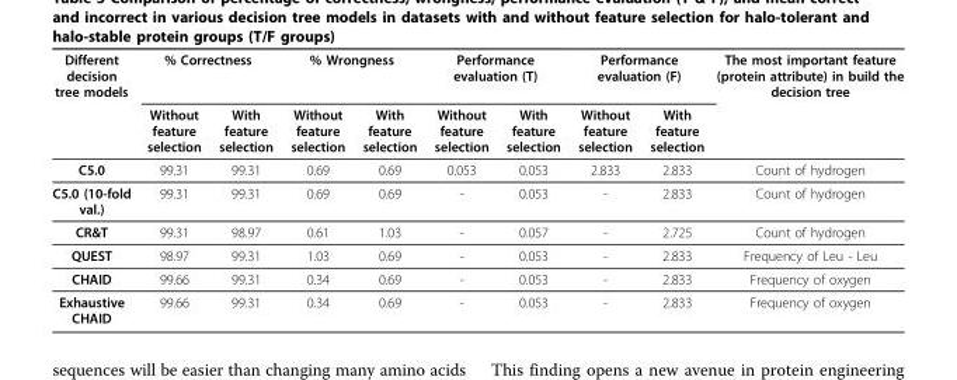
<table><thead><tr><td rowspan="2">Different decision tree models</td><td colspan="2">% Correctness</td><td colspan="2">% Wrongness</td><td colspan="2">Performance evaluation (T)</td><td colspan="2">Performance evaluation (F)</td><td rowspan="2">The most important feature (protein attribute) in build the decision tree</td></tr><tr><td>Without feature selection</td><td>With feature selection</td><td>Without feature selection</td><td>With feature selection</td><td>Without feature selection</td><td>With feature selection</td><td>Without feature selection</td><td>With feature selection</td></tr></thead><tbody><tr><td>C5.0</td><td>99.31</td><td>99.31</td><td>0.69</td><td>0.69</td><td>0.053</td><td>0.053</td><td>2.833</td><td>2.833</td><td>Count of hydrogen</td></tr><tr><td>C5.0 (10-fold val.)</td><td>99.31</td><td>99.31</td><td>0.69</td><td>0.69</td><td>-</td><td>0.053</td><td>-</td><td>2.833</td><td>Count of hydrogen</td></tr><tr><td>CR&amp;T</td><td>99.31</td><td>98.97</td><td>0.61</td><td>1.03</td><td>-</td><td>0.057</td><td>-</td><td>2.725</td><td>Count of hydrogen</td></tr><tr><td>QUEST</td><td>98.97</td><td>99.31</td><td>1.03</td><td>0.69</td><td>-</td><td>0.053</td><td>-</td><td>2.833</td><td>Frequency of Leu - Leu</td></tr><tr><td>CHAID</td><td>99.66</td><td>99.31</td><td>0.34</td><td>0.69</td><td>-</td><td>0.053</td><td>-</td><td>2.833</td><td>Frequency of oxygen</td></tr><tr><td>Exhaustive CHAID</td><td>99.66</td><td>99.31</td><td>0.34</td><td>0.69</td><td>-</td><td>0.053</td><td>-</td><td>2.833</td><td>Frequency of oxygen</td></tr></tbody></table>